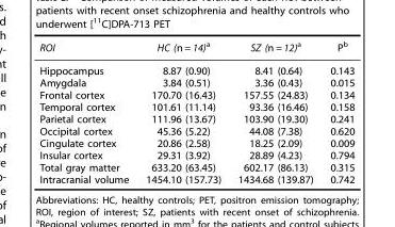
<table><thead><tr><td>ROI</td><td>HC (n = 14)<sup>a</sup></td><td>SZ (n = 12)<sup>a</sup></td><td>P<sup>b</sup></td></tr></thead><tbody><tr><td>Hippocampus</td><td>8.87 (0.90)</td><td>8.41 (0.64)</td><td>0.143</td></tr><tr><td>Amygdala</td><td>3.84 (0.51)</td><td>3.36 (0.43)</td><td>0.015</td></tr><tr><td>Frontal cortex</td><td>170.70 (16.43)</td><td>157.55 (24.83)</td><td>0.134</td></tr><tr><td>Temporal cortex</td><td>101.61 (11.14)</td><td>93.36 (16.46)</td><td>0.158</td></tr><tr><td>Parietal cortex</td><td>111.96 (13.67)</td><td>103.90 (19.30)</td><td>0.241</td></tr><tr><td>Occipital cortex</td><td>45.36 (5.22)</td><td>44.08 (7.38)</td><td>0.620</td></tr><tr><td>Cingulate cortex</td><td>20.86 (2.58)</td><td>18.25 (2.09)</td><td>0.009</td></tr><tr><td>Insular cortex</td><td>29.31 (3.92)</td><td>28.89 (4.23)</td><td>0.794</td></tr><tr><td>Total gray matter</td><td>633.20 (63.45)</td><td>602.17 (86.13)</td><td>0.315</td></tr><tr><td>Intracranial volume</td><td>1454.10 (157.73)</td><td>1434.68 (139.87)</td><td>0.742</td></tr></tbody></table>